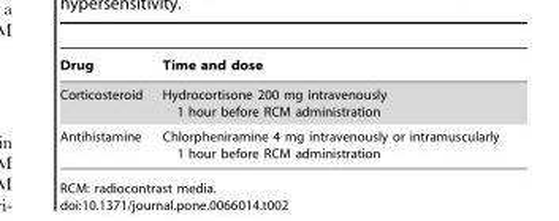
<table><thead><tr><td>Drug</td><td>Time and dose</td></tr></thead><tbody><tr><td>Corticosteroid</td><td>Hydrocortisone 200 mg intravenously 1 hour before RCM administration</td></tr><tr><td>Antihistamine</td><td>Chlorpheniramine 4 mg intravenously or intramuscularly 1 hour before RCM administration</td></tr></tbody></table>